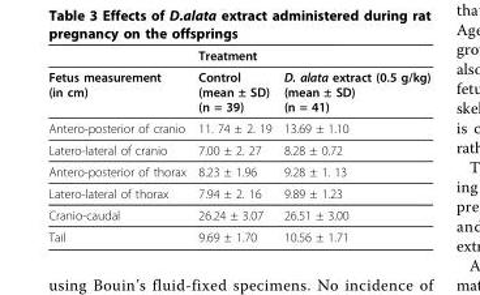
<table><thead><tr><td rowspan="2">Fetus measurement (in cm)</td><td colspan="2">Treatment</td></tr><tr><td>Control (mean ± SD) (n = 39)</td><td>D. alata extract (0.5 g/kg) (mean ± SD) (n = 41)</td></tr></thead><tbody><tr><td>Antero-posterior of cranio</td><td>11. 74 ± 2. 19</td><td>13.69 ± 1.10</td></tr><tr><td>Latero-lateral of cranio</td><td>7.00 ± 2. 27</td><td>8.28 ± 0.72</td></tr><tr><td>Antero-posterior of thorax</td><td>8.23 ± 1.96</td><td>9.28 ± 1. 13</td></tr><tr><td>Latero-lateral of thorax</td><td>7.94 ± 2. 16</td><td>9.89 ± 1.23</td></tr><tr><td>Cranio-caudal</td><td>26.24 ± 3.07</td><td>26.51 ± 3.00</td></tr><tr><td>Tail</td><td>9.69 ± 1.70</td><td>10.56 ± 1.71</td></tr></tbody></table>